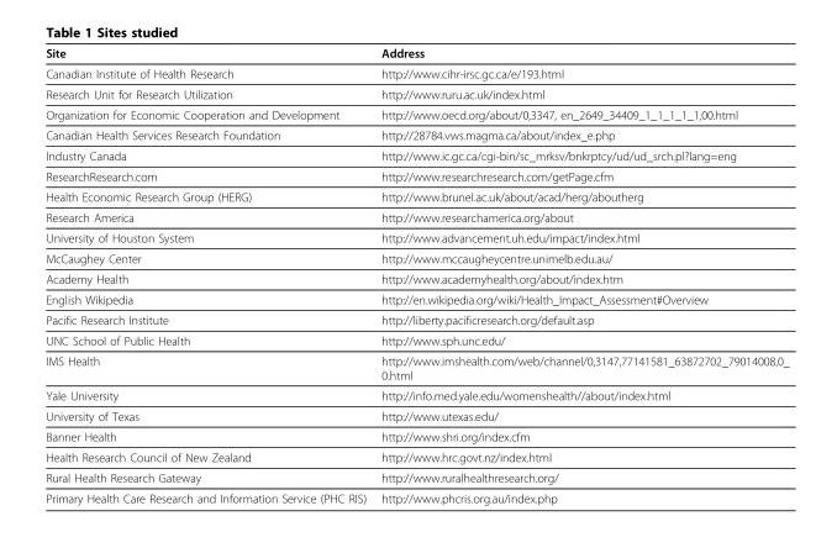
<table><thead><tr><td>Site</td><td>Address</td></tr></thead><tbody><tr><td>Canadian Institute of Health Research</td><td>http://www.cihr-irsc.gc.ca/e/193.html</td></tr><tr><td>Research Unit for Research Utilization</td><td>http://www.ruru.ac.uk/index.html</td></tr><tr><td>Organization for Economic Cooperation and Development</td><td>http://www.oecd.org/about/0,3347, en_2649_34409_1_1_1_1_1,00.html</td></tr><tr><td>Canadian Health Services Research Foundation</td><td>http://28784.vws.magma.ca/about/index_e.php</td></tr><tr><td>Industry Canada</td><td>http://www.ic.gc.ca/cgi-bin/sc_mrksv/bnkrptcy/ud/ud_srch.pl?lang=eng</td></tr><tr><td>ResearchResearch.com</td><td>http://www.researchresearch.com/getPage.cfm</td></tr><tr><td>Health Economic Research Group (HERG)</td><td>http://www.brunel.ac.uk/about/acad/herg/aboutherg</td></tr><tr><td>Research America</td><td>http://www.researchamerica.org/about</td></tr><tr><td>University of Houston System</td><td>http://www.advancement.uh.edu/impact/index.html</td></tr><tr><td>McCaughey Center</td><td>http://www.mccaugheycentre.unimelb.edu.au/</td></tr><tr><td>Academy Health</td><td>http://www.academyhealth.org/about/index.htm</td></tr><tr><td>English Wikipedia</td><td>http://en.wikipedia.org/wiki/Health_Impact_Assessment#Overview</td></tr><tr><td>Pacific Research Institute</td><td>http://liberty.pacificresearch.org/default.asp</td></tr><tr><td>UNC School of Public Health</td><td>http://www.sph.unc.edu/</td></tr><tr><td>IMS Health</td><td>http://www.imshealth.com/web/channel/0,3147,77141581_63872702_79014008,0_ 0.html</td></tr><tr><td>Yale University</td><td>http://info.med.yale.edu/womenshealth//about/index.html</td></tr><tr><td>University of Texas</td><td>http://www.utexas.edu/</td></tr><tr><td>Banner Health</td><td>http://www.shri.org/index.cfm</td></tr><tr><td>Health Research Council of New Zealand</td><td>http://www.hrc.govt.nz/index.html</td></tr><tr><td>Rural Health Research Gateway</td><td>http://www.ruralhealthresearch.org/</td></tr><tr><td>Primary Health Care Research and Information Service (PHC RIS)</td><td>http://www.phcris.org.au/index.php</td></tr></tbody></table>